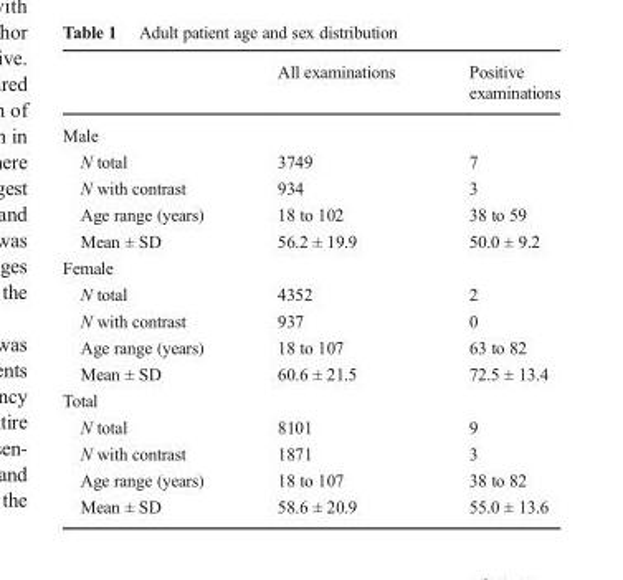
<table><thead><tr><td></td><td>All examinations</td><td>Positive examinations</td></tr></thead><tbody><tr><td colspan="3">Male</td></tr><tr><td>N total</td><td>3749</td><td>7</td></tr><tr><td>N with contrast</td><td>934</td><td>3</td></tr><tr><td>Age range (years)</td><td>18 to 102</td><td>38 to 59</td></tr><tr><td>Mean ± SD</td><td>56.2 ± 19.9</td><td>50.0 ± 9.2</td></tr><tr><td colspan="3">Female</td></tr><tr><td>N total</td><td>4352</td><td>2</td></tr><tr><td>N with contrast</td><td>937</td><td>0</td></tr><tr><td>Age range (years)</td><td>18 to 107</td><td>63 to 82</td></tr><tr><td>Mean ± SD</td><td>60.6 ± 21.5</td><td>72.5 ± 13.4</td></tr><tr><td colspan="3">Total</td></tr><tr><td>N total</td><td>8101</td><td>9</td></tr><tr><td>N with contrast</td><td>1871</td><td>3</td></tr><tr><td>Age range (years)</td><td>18 to 107</td><td>38 to 82</td></tr><tr><td>Mean ± SD</td><td>58.6 ± 20.9</td><td>55.0 ± 13.6</td></tr></tbody></table>